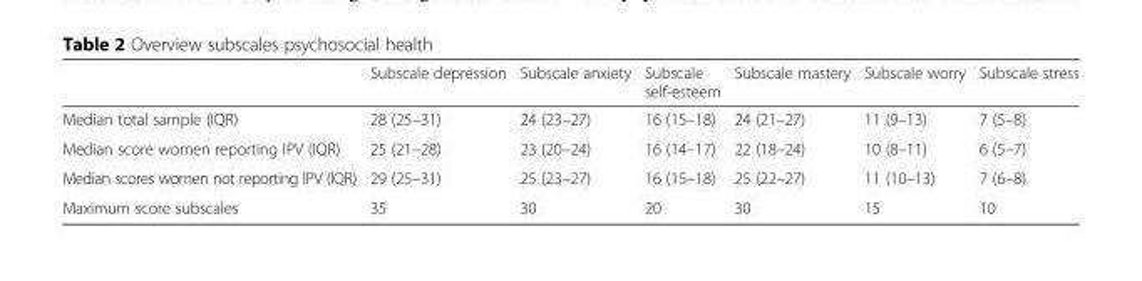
<table><thead><tr><td></td><td>Subscale depression</td><td>Subscale anxiety</td><td>Subscale self-esteem</td><td>Subscale mastery</td><td>Subscale worry</td><td>Subscale stress</td></tr></thead><tbody><tr><td>Median total sample (IQR)</td><td>28 (25–31)</td><td>24 (23–27)</td><td>16 (15–18)</td><td>24 (21–27)</td><td>11 (9–13)</td><td>7 (5–8)</td></tr><tr><td>Median score women reporting IPV (IQR)</td><td>25 (21–28)</td><td>23 (20–24)</td><td>16 (14–17)</td><td>22 (18–24)</td><td>10 (8–11)</td><td>6 (5–7)</td></tr><tr><td>Median scores women not reporting IPV (IQR)</td><td>29 (25–31)</td><td>25 (23–27)</td><td>16 (15–18)</td><td>25 (22–27)</td><td>11 (10–13)</td><td>7 (6–8)</td></tr><tr><td>Maximum score subscales</td><td>35</td><td>30</td><td>20</td><td>30</td><td>15</td><td>10</td></tr></tbody></table>